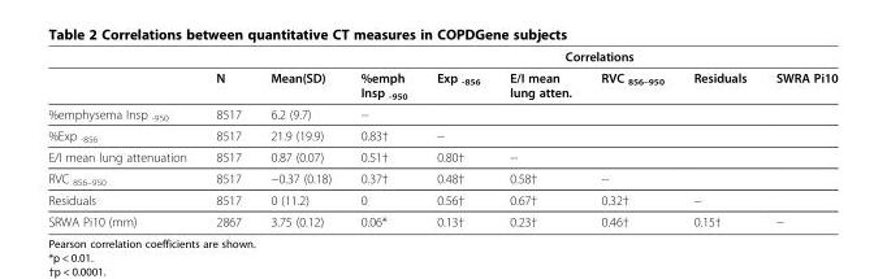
<table><thead><tr><td rowspan="2"></td><td rowspan="2">N</td><td rowspan="2">Mean(SD)</td><td colspan="6">Correlations</td></tr><tr><td>%emph Insp <sub>-950</sub></td><td>Exp <sub>-856</sub></td><td>E/I mean lung atten.</td><td>RVC <sub>856–950</sub></td><td>Residuals</td><td>SWRA Pi10</td></tr></thead><tbody><tr><td>%emphysema Insp <sub>-950</sub></td><td>8517</td><td>6.2 (9.7)</td><td>--</td><td></td><td></td><td></td><td></td><td></td></tr><tr><td>%Exp <sub>-856</sub></td><td>8517</td><td>21.9 (19.9)</td><td>0.83†</td><td>--</td><td></td><td></td><td></td><td></td></tr><tr><td>E/I mean lung attenuation</td><td>8517</td><td>0.87 (0.07)</td><td>0.51†</td><td>0.80†</td><td>--</td><td></td><td></td><td></td></tr><tr><td>RVC <sub>856–950</sub></td><td>8517</td><td>−0.37 (0.18)</td><td>0.37†</td><td>0.48†</td><td>0.58†</td><td>--</td><td></td><td></td></tr><tr><td>Residuals</td><td>8517</td><td>0 (11.2)</td><td>0</td><td>0.56†</td><td>0.67†</td><td>0.32†</td><td>--</td><td></td></tr><tr><td>SRWA Pi10 (mm)</td><td>2867</td><td>3.75 (0.12)</td><td>0.06*</td><td>0.13†</td><td>0.23†</td><td>0.46†</td><td>0.15†</td><td>--</td></tr></tbody></table>